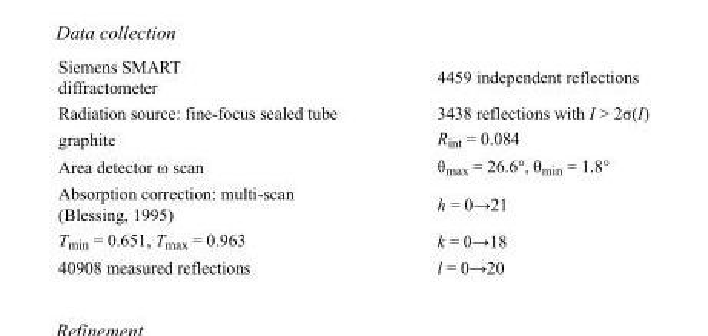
<table><tbody><tr><td>Siemens SMART diffractometer</td><td>4459 independent reflections</td></tr><tr><td>Radiation source: fine-focus sealed tube</td><td>3438 reflections with I &gt; 2σ(I)</td></tr><tr><td>graphite</td><td>R<sub>int</sub> = 0.084</td></tr><tr><td>Area detector ω scan</td><td>θ<sub>max</sub> = 26.6°, θ<sub>min</sub> = 1.8°</td></tr><tr><td>Absorption correction: multi-scan (Blessing, 1995)</td><td>h = 0→21</td></tr><tr><td>T<sub>min</sub> = 0.651, T<sub>max</sub> = 0.963</td><td>k = 0→18</td></tr><tr><td>40908 measured reflections</td><td>l = 0→20</td></tr></tbody></table>